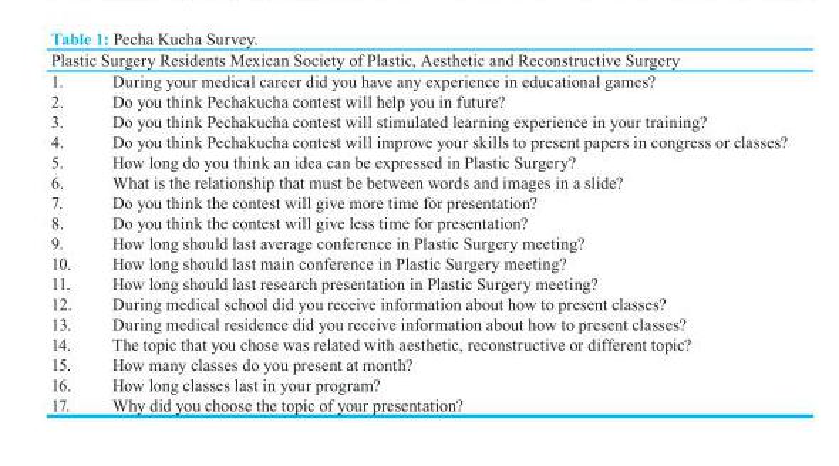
<table><thead><tr><td colspan="2">Plastic Surgery Residents Mexican Society of Plastic, Aesthetic and Reconstructive Surgery</td></tr><tr><td>1.</td><td>During your medical career did you have any experience in educational games?</td></tr></thead><tbody><tr><td>2.</td><td>Do you think Pechakucha contest will help you in future?</td></tr><tr><td>3.</td><td>Do you think Pechakucha contest will stimulated learning experience in your training?</td></tr><tr><td>4.</td><td>Do you think Pechakucha contest will improve your skills to present papers in congress or classes?</td></tr><tr><td>5.</td><td>How long do you think an idea can be expressed in Plastic Surgery?</td></tr><tr><td>6.</td><td>What is the relationship that must be between words and images in a slide?</td></tr><tr><td>7.</td><td>Do you think the contest will give more time for presentation?</td></tr><tr><td>8.</td><td>Do you think the contest will give less time for presentation?</td></tr><tr><td>9.</td><td>How long should last average conference in Plastic Surgery meeting?</td></tr><tr><td>10.</td><td>How long should last main conference in Plastic Surgery meeting?</td></tr><tr><td>11.</td><td>How long should last research presentation in Plastic Surgery meeting?</td></tr><tr><td>12.</td><td>During medical school did you receive information about how to present classes?</td></tr><tr><td>13.</td><td>During medical residence did you receive information about how to present classes?</td></tr><tr><td>14.</td><td>The topic that you chose was related with aesthetic, reconstructive or different topic?</td></tr><tr><td>15.</td><td>How many classes do you present at month?</td></tr><tr><td>16.</td><td>How long classes last in your program?</td></tr><tr><td>17.</td><td>Why did you choose the topic of your presentation?</td></tr></tbody></table>